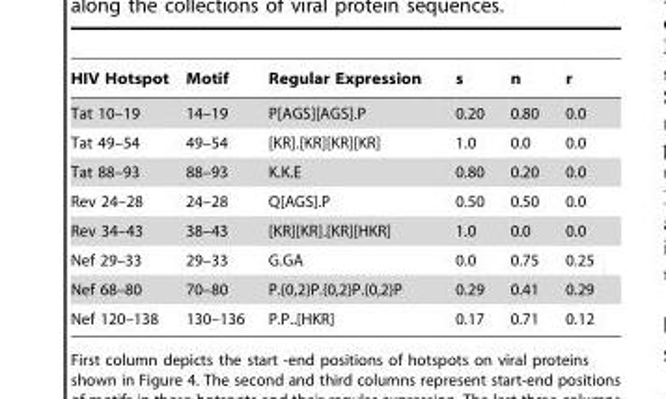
<table><thead><tr><td>HIV Hotspot</td><td>Motif</td><td>Regular Expression</td><td>s</td><td>n</td><td>r</td></tr></thead><tbody><tr><td>Tat 10–19</td><td>14–19</td><td>P[AGS][AGS].P</td><td>0.20</td><td>0.80</td><td>0.0</td></tr><tr><td>Tat 49–54</td><td>49–54</td><td>[KR].[KR][KR][KR]</td><td>1.0</td><td>0.0</td><td>0.0</td></tr><tr><td>Tat 88–93</td><td>88–93</td><td>K.K.E</td><td>0.80</td><td>0.20</td><td>0.0</td></tr><tr><td>Rev 24–28</td><td>24–28</td><td>Q[AGS].P</td><td>0.50</td><td>0.50</td><td>0.0</td></tr><tr><td>Rev 34–43</td><td>38–43</td><td>[KR][KR].[KR][HKR]</td><td>1.0</td><td>0.0</td><td>0.0</td></tr><tr><td>Nef 29–33</td><td>29–33</td><td>G.GA</td><td>0.0</td><td>0.75</td><td>0.25</td></tr><tr><td>Nef 68–80</td><td>70–80</td><td>P.{0,2}P.{0,2}P.{0,2}P</td><td>0.29</td><td>0.41</td><td>0.29</td></tr><tr><td>Nef 120–138</td><td>130–136</td><td>P.P..[HKR]</td><td>0.17</td><td>0.71</td><td>0.12</td></tr></tbody></table>